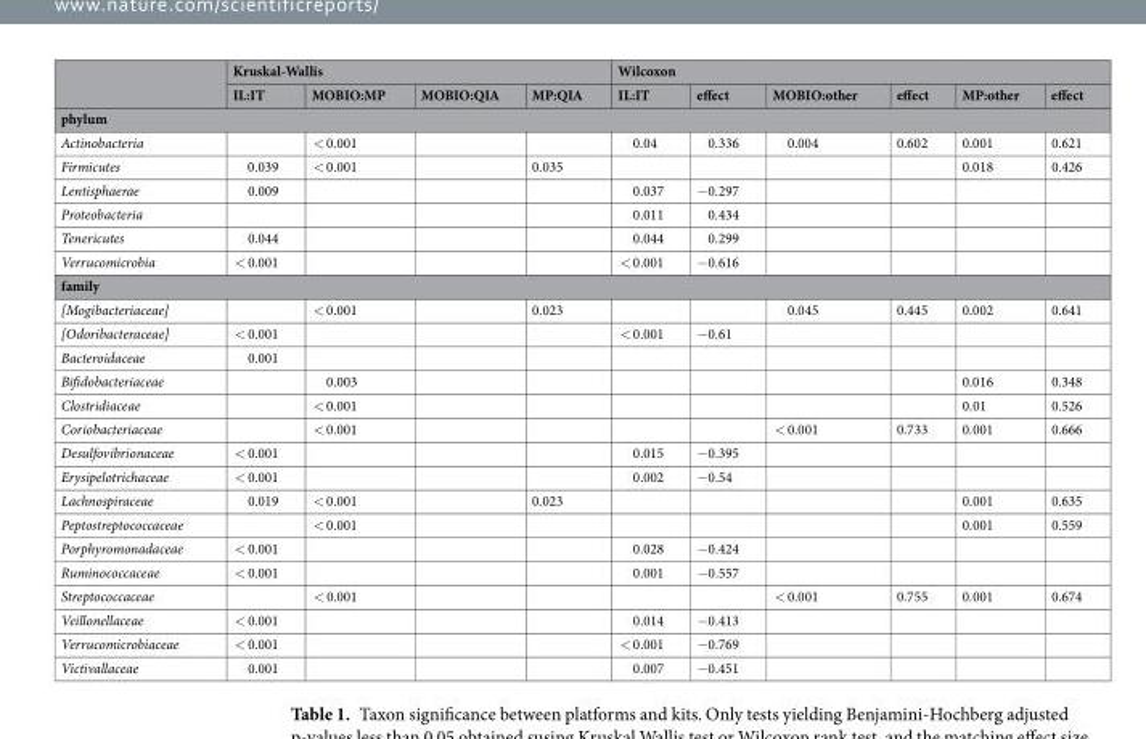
<table><thead><tr><td rowspan="2"></td><td colspan="4">Kruskal-Wallis</td><td colspan="6">Wilcoxon</td></tr><tr><td>IL:IT</td><td>MOBIO:MP</td><td>MOBIO:QIA</td><td>MP:QIA</td><td>IL:IT</td><td>effect</td><td>MOBIO:other</td><td>effect</td><td>MP:other</td><td>effect</td></tr></thead><tbody><tr><td colspan="11">phylum</td></tr><tr><td>Actinobacteria</td><td></td><td>&lt; 0.001</td><td></td><td></td><td>0.04</td><td>0.336</td><td>0.004</td><td>0.602</td><td>0.001</td><td>0.621</td></tr><tr><td>Firmicutes</td><td>0.039</td><td>&lt; 0.001</td><td></td><td>0.035</td><td></td><td></td><td></td><td></td><td>0.018</td><td>0.426</td></tr><tr><td>Lentisphaerae</td><td>0.009</td><td></td><td></td><td></td><td>0.037</td><td>−0.297</td><td></td><td></td><td></td><td></td></tr><tr><td>Proteobacteria</td><td></td><td></td><td></td><td></td><td>0.011</td><td>0.434</td><td></td><td></td><td></td><td></td></tr><tr><td>Tenericutes</td><td>0.044</td><td></td><td></td><td></td><td>0.044</td><td>0.299</td><td></td><td></td><td></td><td></td></tr><tr><td>Verrucomicrobia</td><td>&lt; 0.001</td><td></td><td></td><td></td><td>&lt; 0.001</td><td>−0.616</td><td></td><td></td><td></td><td></td></tr><tr><td colspan="11">family</td></tr><tr><td>[Mogibacteriaceae]</td><td></td><td>&lt; 0.001</td><td></td><td>0.023</td><td></td><td></td><td>0.045</td><td>0.445</td><td>0.002</td><td>0.641</td></tr><tr><td>[Odoribacteraceae]</td><td>&lt; 0.001</td><td></td><td></td><td></td><td>&lt; 0.001</td><td>−0.61</td><td></td><td></td><td></td><td></td></tr><tr><td>Bacteroidaceae</td><td>0.001</td><td></td><td></td><td></td><td></td><td></td><td></td><td></td><td></td><td></td></tr><tr><td>Bifidobacteriaceae</td><td></td><td>0.003</td><td></td><td></td><td></td><td></td><td></td><td></td><td>0.016</td><td>0.348</td></tr><tr><td>Clostridiaceae</td><td></td><td>&lt; 0.001</td><td></td><td></td><td></td><td></td><td></td><td></td><td>0.01</td><td>0.526</td></tr><tr><td>Coriobacteriaceae</td><td></td><td>&lt; 0.001</td><td></td><td></td><td></td><td></td><td>&lt; 0.001</td><td>0.733</td><td>0.001</td><td>0.666</td></tr><tr><td>Desulfovibrionaceae</td><td>&lt; 0.001</td><td></td><td></td><td></td><td>0.015</td><td>−0.395</td><td></td><td></td><td></td><td></td></tr><tr><td>Erysipelotrichaceae</td><td>&lt; 0.001</td><td></td><td></td><td></td><td>0.002</td><td>−0.54</td><td></td><td></td><td></td><td></td></tr><tr><td>Lachnospiraceae</td><td>0.019</td><td>&lt; 0.001</td><td></td><td>0.023</td><td></td><td></td><td></td><td></td><td>0.001</td><td>0.635</td></tr><tr><td>Peptostreptococcaceae</td><td></td><td>&lt; 0.001</td><td></td><td></td><td></td><td></td><td></td><td></td><td>0.001</td><td>0.559</td></tr><tr><td>Porphyromonadaceae</td><td>&lt; 0.001</td><td></td><td></td><td></td><td>0.028</td><td>−0.424</td><td></td><td></td><td></td><td></td></tr><tr><td>Ruminococcaceae</td><td>&lt; 0.001</td><td></td><td></td><td></td><td>0.001</td><td>−0.557</td><td></td><td></td><td></td><td></td></tr><tr><td>Streptococcaceae</td><td></td><td>&lt; 0.001</td><td></td><td></td><td></td><td></td><td>&lt; 0.001</td><td>0.755</td><td>0.001</td><td>0.674</td></tr><tr><td>Veillonellaceae</td><td>&lt; 0.001</td><td></td><td></td><td></td><td>0.014</td><td>−0.413</td><td></td><td></td><td></td><td></td></tr><tr><td>Verrucomicrobiaceae</td><td>&lt; 0.001</td><td></td><td></td><td></td><td>&lt; 0.001</td><td>−0.769</td><td></td><td></td><td></td><td></td></tr><tr><td>Victivallaceae</td><td>0.001</td><td></td><td></td><td></td><td>0.007</td><td>−0.451</td><td></td><td></td><td></td><td></td></tr></tbody></table>